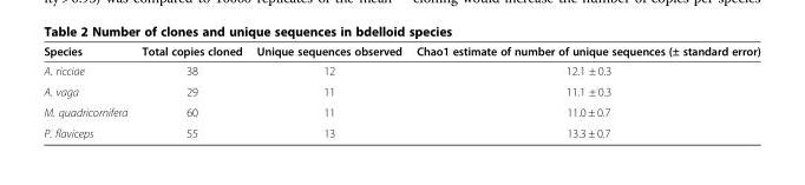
<table><thead><tr><td>Species</td><td>Total copies cloned</td><td>Unique sequences observed</td><td>Chao1 estimate of number of unique sequences (± standard error)</td></tr></thead><tbody><tr><td>A. ricciae</td><td>38</td><td>12</td><td>12.1 ± 0.3</td></tr><tr><td>A. vaga</td><td>29</td><td>11</td><td>11.1 ± 0.3</td></tr><tr><td>M. quadricornifera</td><td>60</td><td>11</td><td>11.0 ± 0.7</td></tr><tr><td>P. flaviceps</td><td>55</td><td>13</td><td>13.3 ± 0.7</td></tr></tbody></table>